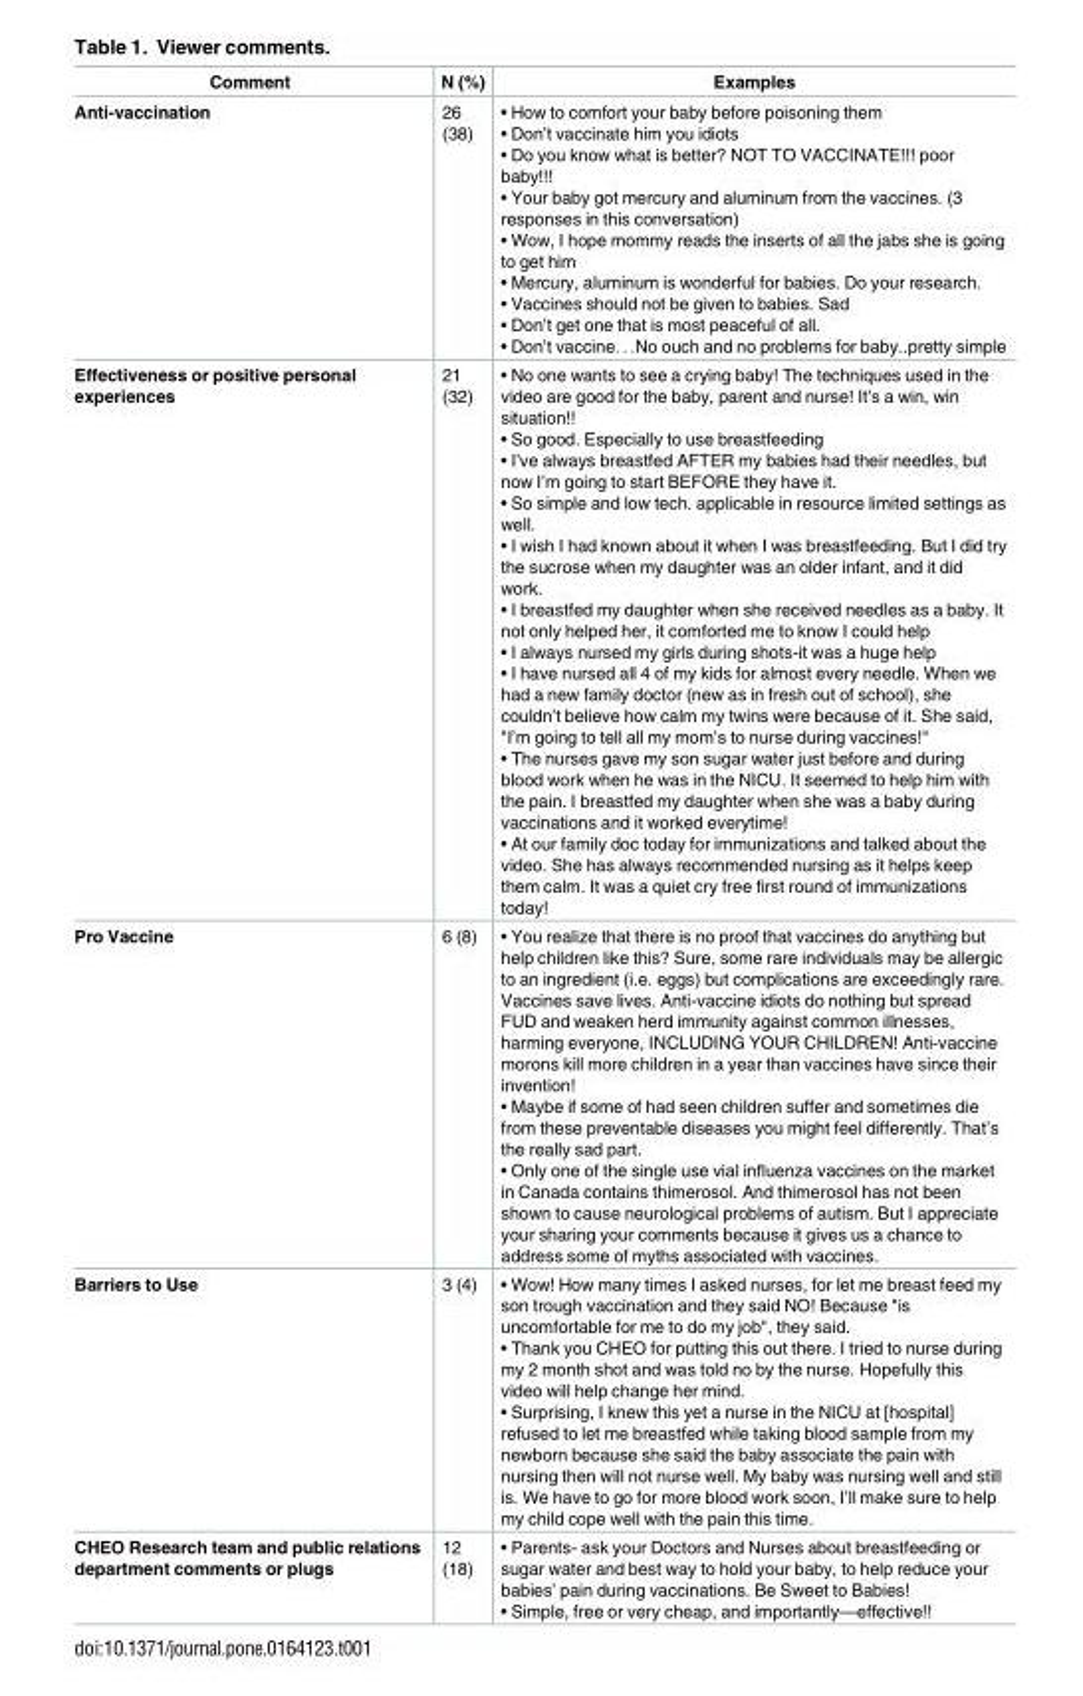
<table><thead><tr><td>Comment</td><td>N (%)</td><td>Examples</td></tr></thead><tbody><tr><td>Anti-vaccination</td><td>26 (38)</td><td>• How to comfort your baby before poisoning them • Don’t vaccinate him you idiots • Do you know what is better? NOT TO VACCINATE!!! poor baby!!! • Your baby got mercury and aluminum from the vaccines. (3 responses in this conversation) • Wow, I hope mommy reads the inserts of all the jabs she is going to get him • Mercury, aluminum is wonderful for babies. Do your research. • Vaccines should not be given to babies. Sad • Don’t get one that is most peaceful of all. • Don’t vaccine. . .No ouch and no problems for baby..pretty simple</td></tr><tr><td>Effectiveness or positive personal experiences</td><td>21 (32)</td><td>• No one wants to see a crying baby! The techniques used in the video are good for the baby, parent and nurse! It’s a win, win situation!! • So good. Especially to use breastfeeding • I’ve always breastfed AFTER my babies had their needles, but now I’m going to start BEFORE they have it. • So simple and low tech. applicable in resource limited settings as well. • I wish I had known about it when I was breastfeeding. But I did try the sucrose when my daughter was an older infant, and it did work. • I breastfed my daughter when she received needles as a baby. It not only helped her, it comforted me to know I could help • I always nursed my girls during shots-it was a huge help • I have nursed all 4 of my kids for almost every needle. When we had a new family doctor (new as in fresh out of school), she couldn’t believe how calm my twins were because of it. She said, &quot;I’m going to tell all my mom’s to nurse during vaccines!&quot; • The nurses gave my son sugar water just before and during blood work when he was in the NICU. It seemed to help him with the pain. I breastfed my daughter when she was a baby during vaccinations and it worked everytime! • At our family doc today for immunizations and talked about the video. She has always recommended nursing as it helps keep them calm. It was a quiet cry free first round of immunizations today!</td></tr><tr><td>Pro Vaccine</td><td>6 (8)</td><td>• You realize that there is no proof that vaccines do anything but help children like this? Sure, some rare individuals may be allergic to an ingredient (i.e. eggs) but complications are exceedingly rare. Vaccines save lives. Anti-vaccine idiots do nothing but spread FUD and weaken herd immunity against common illnesses, harming everyone, INCLUDING YOUR CHILDREN! Anti-vaccine morons kill more children in a year than vaccines have since their invention! • Maybe if some of had seen children suffer and sometimes die from these preventable diseases you might feel differently. That’s the really sad part. • Only one of the single use vial influenza vaccines on the market in Canada contains thimerosol. And thimerosol has not been shown to cause neurological problems of autism. But I appreciate your sharing your comments because it gives us a chance to address some of myths associated with vaccines.</td></tr><tr><td>Barriers to Use</td><td>3 (4)</td><td>• Wow! How many times I asked nurses, for let me breast feed my son trough vaccination and they said NO! Because &quot;is uncomfortable for me to do my job&quot;, they said. • Thank you CHEO for putting this out there. I tried to nurse during my 2 month shot and was told no by the nurse. Hopefully this video will help change her mind. • Surprising, I knew this yet a nurse in the NICU at [hospital] refused to let me breastfed while taking blood sample from my newborn because she said the baby associate the pain with nursing then will not nurse well. My baby was nursing well and still is. We have to go for more blood work soon, I’ll make sure to help my child cope well with the pain this time.</td></tr><tr><td>CHEO Research team and public relations department comments or plugs</td><td>12 (18)</td><td>• Parents- ask your Doctors and Nurses about breastfeeding or sugar water and best way to hold your baby, to help reduce your babies’ pain during vaccinations. Be Sweet to Babies! • Simple, free or very cheap, and importantly—effective!!</td></tr></tbody></table>